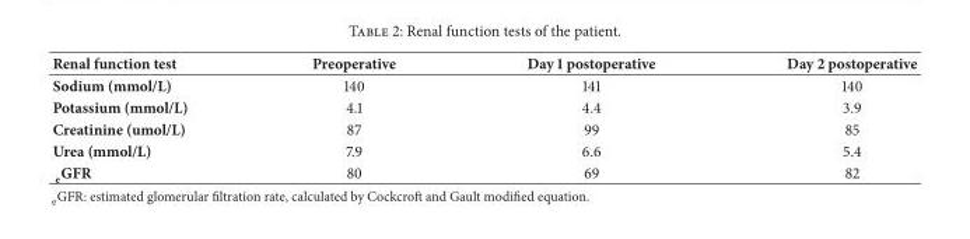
<table><thead><tr><td>Renal function test</td><td>Preoperative</td><td>Day 1 postoperative</td><td>Day 2 postoperative</td></tr></thead><tbody><tr><td>Sodium (mmol/L)</td><td>140</td><td>141</td><td>140</td></tr><tr><td>Potassium (mmol/L)</td><td>4.1</td><td>4.4</td><td>3.9</td></tr><tr><td>Creatinine (umol/L)</td><td>87</td><td>99</td><td>85</td></tr><tr><td>Urea (mmol/L)</td><td>7.9</td><td>6.6</td><td>5.4</td></tr><tr><td><sub>e</sub>GFR</td><td>80</td><td>69</td><td>82</td></tr></tbody></table>